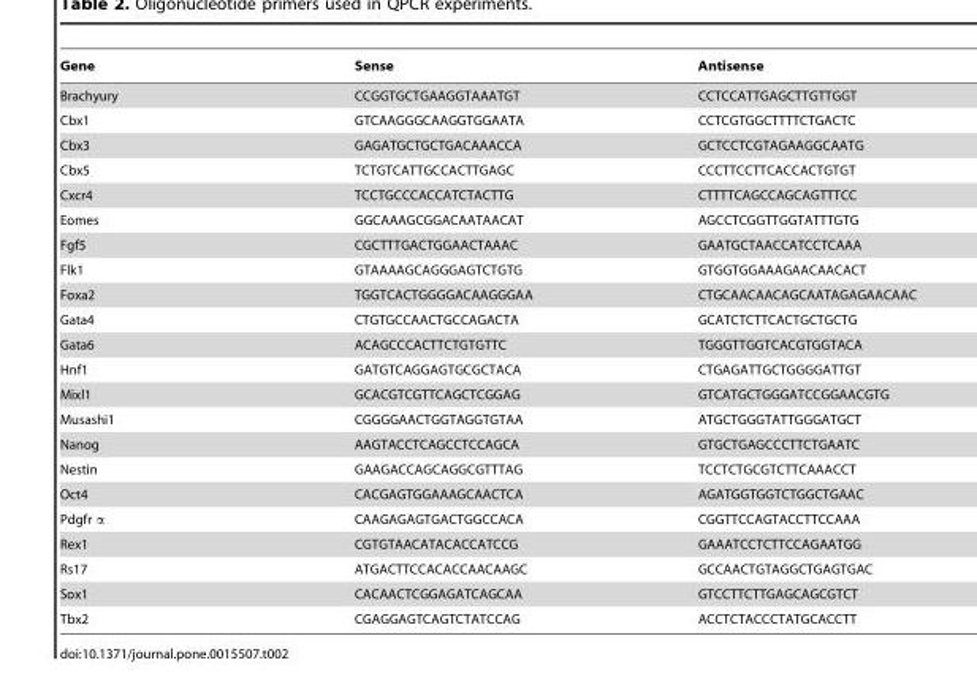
<table><thead><tr><td>Gene</td><td>Sense</td><td>Antisense</td></tr></thead><tbody><tr><td>Brachyury</td><td>CCGGTGCTGAAGGTAAATGT</td><td>CCTCCATTGAGCTTGTTGGT</td></tr><tr><td>Cbx1</td><td>GTCAAGGGCAAGGTGGAATA</td><td>CCTCGTGGCTTTTCTGACTC</td></tr><tr><td>Cbx3</td><td>GAGATGCTGCTGACAAACCA</td><td>GCTCCTCGTAGAAGGCAATG</td></tr><tr><td>Cbx5</td><td>TCTGTCATTGCCACTTGAGC</td><td>CCCTTCCTTCACCACTGTGT</td></tr><tr><td>Cxcr4</td><td>TCCTGCCCACCATCTACTTG</td><td>CTTTTCAGCCAGCAGTTTCC</td></tr><tr><td>Eomes</td><td>GGCAAAGCGGACAATAACAT</td><td>AGCCTCGGTTGGTATTTGTG</td></tr><tr><td>Fgf5</td><td>CGCTTTGACTGGAACTAAAC</td><td>GAATGCTAACCATCCTCAAA</td></tr><tr><td>Flk1</td><td>GTAAAAGCAGGGAGTCTGTG</td><td>GTGGTGGAAAGAACAACACT</td></tr><tr><td>Foxa2</td><td>TGGTCACTGGGGACAAGGGAA</td><td>CTGCAACAACAGCAATAGAGAACAAC</td></tr><tr><td>Gata4</td><td>CTGTGCCAACTGCCAGACTA</td><td>GCATCTCTTCACTGCTGCTG</td></tr><tr><td>Gata6</td><td>ACAGCCCACTTCTGTGTTC</td><td>TGGGTTGGTCACGTGGTACA</td></tr><tr><td>Hnf1</td><td>GATGTCAGGAGTGCGCTACA</td><td>CTGAGATTGCTGGGGATTGT</td></tr><tr><td>Mixl1</td><td>GCACGTCGTTCAGCTCGGAG</td><td>GTCATGCTGGGATCCGGAACGTG</td></tr><tr><td>Musashi1</td><td>CGGGGAACTGGTAGGTGTAA</td><td>ATGCTGGGTATTGGGATGCT</td></tr><tr><td>Nanog</td><td>AAGTACCTCAGCCTCCAGCA</td><td>GTGCTGAGCCCTTCTGAATC</td></tr><tr><td>Nestin</td><td>GAAGACCAGCAGGCGTTTAG</td><td>TCCTCTGCGTCTTCAAACCT</td></tr><tr><td>Oct4</td><td>CACGAGTGGAAAGCAACTCA</td><td>AGATGGTGGTCTGGCTGAAC</td></tr><tr><td>Pdgfr α</td><td>CAAGAGAGTGACTGGCCACA</td><td>CGGTTCCAGTACCTTCCAAA</td></tr><tr><td>Rex1</td><td>CGTGTAACATACACCATCCG</td><td>GAAATCCTCTTCCAGAATGG</td></tr><tr><td>Rs17</td><td>ATGACTTCCACACCAACAAGC</td><td>GCCAACTGTAGGCTGAGTGAC</td></tr><tr><td>Sox1</td><td>CACAACTCGGAGATCAGCAA</td><td>GTCCTTCTTGAGCAGCGTCT</td></tr><tr><td>Tbx2</td><td>CGAGGAGTCAGTCTATCCAG</td><td>ACCTCTACCCTATGCACCTT</td></tr></tbody></table>